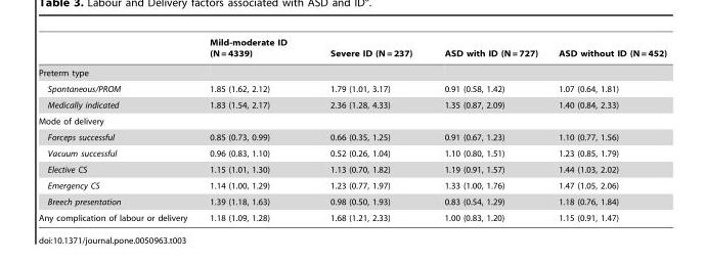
<table><thead><tr><td></td><td>Mild-moderate ID (N = 4339)</td><td>Severe ID (N = 237)</td><td>ASD with ID (N = 727)</td><td>ASD without ID (N = 452)</td></tr></thead><tbody><tr><td colspan="5">Preterm type</td></tr><tr><td>Spontaneous/PROM</td><td>1.85 (1.62, 2.12)</td><td>1.79 (1.01, 3.17)</td><td>0.91 (0.58, 1.42)</td><td>1.07 (0.64, 1.81)</td></tr><tr><td>Medically indicated</td><td>1.83 (1.54, 2.17)</td><td>2.36 (1.28, 4.33)</td><td>1.35 (0.87, 2.09)</td><td>1.40 (0.84, 2.33)</td></tr><tr><td colspan="5">Mode of delivery</td></tr><tr><td>Forceps successful</td><td>0.85 (0.73, 0.99)</td><td>0.66 (0.35, 1.25)</td><td>0.91 (0.67, 1.23)</td><td>1.10 (0.77, 1.56)</td></tr><tr><td>Vacuum successful</td><td>0.96 (0.83, 1.10)</td><td>0.52 (0.26, 1.04)</td><td>1.10 (0.80, 1.51)</td><td>1.23 (0.85, 1.79)</td></tr><tr><td>Elective CS</td><td>1.15 (1.01, 1.30)</td><td>1.13 (0.70, 1.82)</td><td>1.19 (0.91, 1.57)</td><td>1.44 (1.03, 2.02)</td></tr><tr><td>Emergency CS</td><td>1.14 (1.00, 1.29)</td><td>1.23 (0.77, 1.97)</td><td>1.33 (1.00, 1.76)</td><td>1.47 (1.05, 2.06)</td></tr><tr><td>Breech presentation</td><td>1.39 (1.18, 1.63)</td><td>0.98 (0.50, 1.93)</td><td>0.83 (0.54, 1.29)</td><td>1.18 (0.76, 1.84)</td></tr><tr><td>Any complication of labour or delivery</td><td>1.18 (1.09, 1.28)</td><td>1.68 (1.21, 2.33)</td><td>1.00 (0.83, 1.20)</td><td>1.15 (0.91, 1.47)</td></tr></tbody></table>